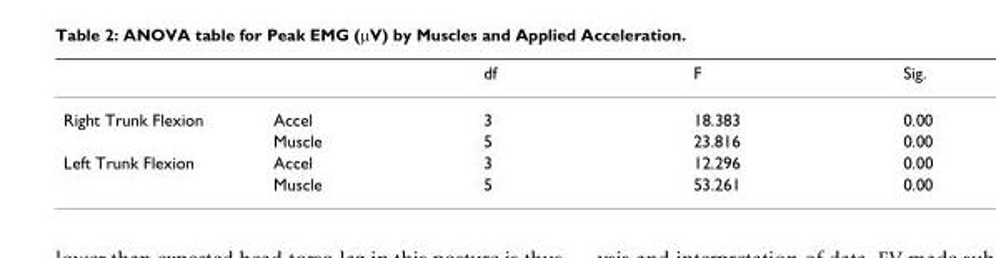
<table><thead><tr><td></td><td></td><td>df</td><td>F</td><td>Sig.</td></tr></thead><tbody><tr><td rowspan="2">Right Trunk Flexion</td><td>Accel</td><td>3</td><td>18.383</td><td>0.00</td></tr><tr><td>Muscle</td><td>5</td><td>23.816</td><td>0.00</td></tr><tr><td rowspan="2">Left Trunk Flexion</td><td>Accel</td><td>3</td><td>12.296</td><td>0.00</td></tr><tr><td>Muscle</td><td>5</td><td>53.261</td><td>0.00</td></tr></tbody></table>